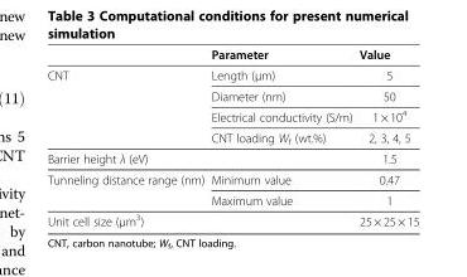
<table><thead><tr><td></td><td>Parameter</td><td>Value</td></tr></thead><tbody><tr><td rowspan="4">CNT</td><td>Length (μm)</td><td>5</td></tr><tr><td>Diameter (nm)</td><td>50</td></tr><tr><td>Electrical conductivity (S/m)</td><td>1 × 10<sup>4</sup></td></tr><tr><td>CNT loading W<sub>f</sub> (wt.%)</td><td>2, 3, 4, 5</td></tr><tr><td>Barrier height λ (eV)</td><td></td><td>1.5</td></tr><tr><td rowspan="2">Tunneling distance range (nm)</td><td>Minimum value</td><td>0.47</td></tr><tr><td>Maximum value</td><td>1</td></tr><tr><td>Unit cell size (μm<sup>3</sup>)</td><td></td><td>25 × 25 × 15</td></tr></tbody></table>